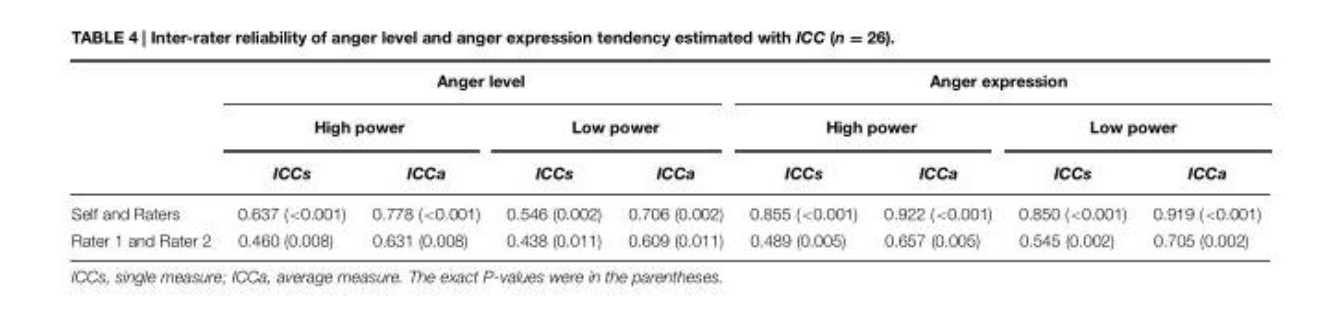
<table><thead><tr><td rowspan="3"></td><td colspan="4">Anger level</td><td colspan="4">Anger expression</td></tr><tr><td colspan="2">High power</td><td colspan="2">Low power</td><td colspan="2">High power</td><td colspan="2">Low power</td></tr><tr><td>ICCs</td><td>ICCa</td><td>ICCs</td><td>ICCa</td><td>ICCs</td><td>ICCa</td><td>ICCs</td><td>ICCa</td></tr></thead><tbody><tr><td>Self and Raters</td><td>0.637 (&lt;0.001)</td><td>0.778 (&lt;0.001)</td><td>0.546 (0.002)</td><td>0.706 (0.002)</td><td>0.855 (&lt;0.001)</td><td>0.922 (&lt;0.001)</td><td>0.850 (&lt;0.001)</td><td>0.919 (&lt;0.001)</td></tr><tr><td>Rater 1 and Rater 2</td><td>0.460 (0.008)</td><td>0.631 (0.008)</td><td>0.438 (0.011)</td><td>0.609 (0.011)</td><td>0.489 (0.005)</td><td>0.657 (0.005)</td><td>0.545 (0.002)</td><td>0.705 (0.002)</td></tr></tbody></table>